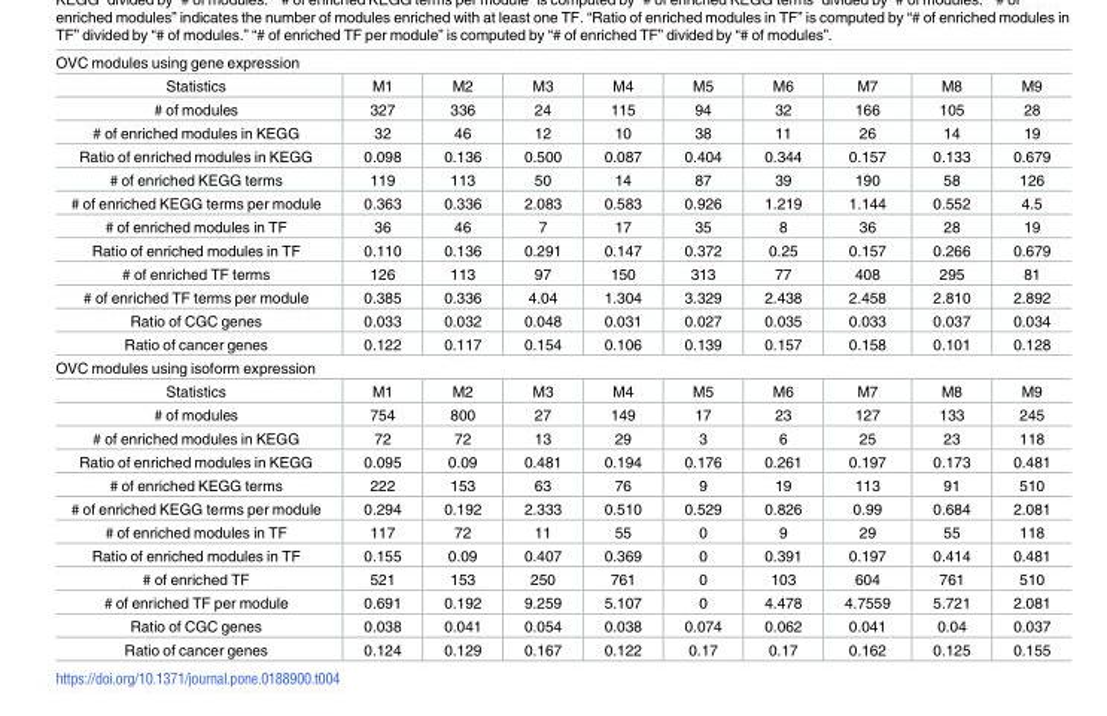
<table><tbody><tr><td colspan="10">OVC modules using gene expression</td></tr><tr><td>Statistics</td><td>M1</td><td>M2</td><td>M3</td><td>M4</td><td>M5</td><td>M6</td><td>M7</td><td>M8</td><td>M9</td></tr><tr><td># of modules</td><td>327</td><td>336</td><td>24</td><td>115</td><td>94</td><td>32</td><td>166</td><td>105</td><td>28</td></tr><tr><td># of enriched modules in KEGG</td><td>32</td><td>46</td><td>12</td><td>10</td><td>38</td><td>11</td><td>26</td><td>14</td><td>19</td></tr><tr><td>Ratio of enriched modules in KEGG</td><td>0.098</td><td>0.136</td><td>0.500</td><td>0.087</td><td>0.404</td><td>0.344</td><td>0.157</td><td>0.133</td><td>0.679</td></tr><tr><td># of enriched KEGG terms</td><td>119</td><td>113</td><td>50</td><td>14</td><td>87</td><td>39</td><td>190</td><td>58</td><td>126</td></tr><tr><td># of enriched KEGG terms per module</td><td>0.363</td><td>0.336</td><td>2.083</td><td>0.583</td><td>0.926</td><td>1.219</td><td>1.144</td><td>0.552</td><td>4.5</td></tr><tr><td># of enriched modules in TF</td><td>36</td><td>46</td><td>7</td><td>17</td><td>35</td><td>8</td><td>36</td><td>28</td><td>19</td></tr><tr><td>Ratio of enriched modules in TF</td><td>0.110</td><td>0.136</td><td>0.291</td><td>0.147</td><td>0.372</td><td>0.25</td><td>0.157</td><td>0.266</td><td>0.679</td></tr><tr><td># of enriched TF terms</td><td>126</td><td>113</td><td>97</td><td>150</td><td>313</td><td>77</td><td>408</td><td>295</td><td>81</td></tr><tr><td># of enriched TF terms per module</td><td>0.385</td><td>0.336</td><td>4.04</td><td>1.304</td><td>3.329</td><td>2.438</td><td>2.458</td><td>2.810</td><td>2.892</td></tr><tr><td>Ratio of CGC genes</td><td>0.033</td><td>0.032</td><td>0.048</td><td>0.031</td><td>0.027</td><td>0.035</td><td>0.033</td><td>0.037</td><td>0.034</td></tr><tr><td>Ratio of cancer genes</td><td>0.122</td><td>0.117</td><td>0.154</td><td>0.106</td><td>0.139</td><td>0.157</td><td>0.158</td><td>0.101</td><td>0.128</td></tr><tr><td colspan="10">OVC modules using isoform expression</td></tr><tr><td>Statistics</td><td>M1</td><td>M2</td><td>M3</td><td>M4</td><td>M5</td><td>M6</td><td>M7</td><td>M8</td><td>M9</td></tr><tr><td># of modules</td><td>754</td><td>800</td><td>27</td><td>149</td><td>17</td><td>23</td><td>127</td><td>133</td><td>245</td></tr><tr><td># of enriched modules in KEGG</td><td>72</td><td>72</td><td>13</td><td>29</td><td>3</td><td>6</td><td>25</td><td>23</td><td>118</td></tr><tr><td>Ratio of enriched modules in KEGG</td><td>0.095</td><td>0.09</td><td>0.481</td><td>0.194</td><td>0.176</td><td>0.261</td><td>0.197</td><td>0.173</td><td>0.481</td></tr><tr><td># of enriched KEGG terms</td><td>222</td><td>153</td><td>63</td><td>76</td><td>9</td><td>19</td><td>113</td><td>91</td><td>510</td></tr><tr><td># of enriched KEGG terms per module</td><td>0.294</td><td>0.192</td><td>2.333</td><td>0.510</td><td>0.529</td><td>0.826</td><td>0.99</td><td>0.684</td><td>2.081</td></tr><tr><td># of enriched modules in TF</td><td>117</td><td>72</td><td>11</td><td>55</td><td>0</td><td>9</td><td>29</td><td>55</td><td>118</td></tr><tr><td>Ratio of enriched modules in TF</td><td>0.155</td><td>0.09</td><td>0.407</td><td>0.369</td><td>0</td><td>0.391</td><td>0.197</td><td>0.414</td><td>0.481</td></tr><tr><td># of enriched TF</td><td>521</td><td>153</td><td>250</td><td>761</td><td>0</td><td>103</td><td>604</td><td>761</td><td>510</td></tr><tr><td># of enriched TF per module</td><td>0.691</td><td>0.192</td><td>9.259</td><td>5.107</td><td>0</td><td>4.478</td><td>4.7559</td><td>5.721</td><td>2.081</td></tr><tr><td>Ratio of CGC genes</td><td>0.038</td><td>0.041</td><td>0.054</td><td>0.038</td><td>0.074</td><td>0.062</td><td>0.041</td><td>0.04</td><td>0.037</td></tr><tr><td>Ratio of cancer genes</td><td>0.124</td><td>0.129</td><td>0.167</td><td>0.122</td><td>0.17</td><td>0.17</td><td>0.162</td><td>0.125</td><td>0.155</td></tr></tbody></table>